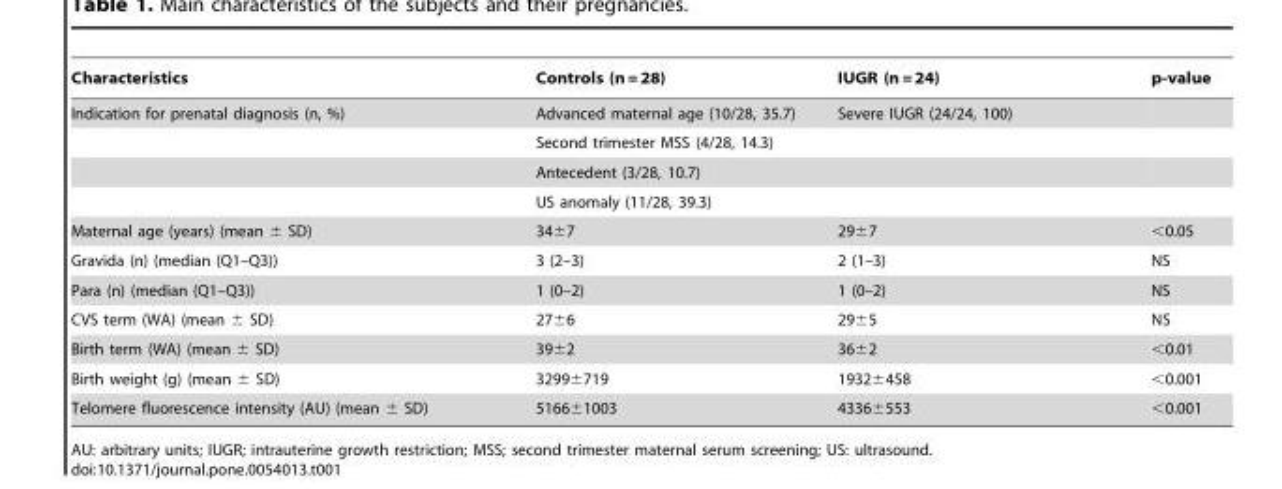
<table><thead><tr><td>Characteristics</td><td>Controls (n = 28)</td><td>IUGR (n = 24)</td><td>p-value</td></tr></thead><tbody><tr><td rowspan="4">Indication for prenatal diagnosis (n, %)</td><td>Advanced maternal age (10/28, 35.7)</td><td>Severe IUGR (24/24, 100)</td><td></td></tr><tr><td>Second trimester MSS (4/28, 14.3)</td><td></td><td></td></tr><tr><td>Antecedent (3/28, 10.7)</td><td></td><td></td></tr><tr><td>US anomaly (11/28, 39.3)</td><td></td><td></td></tr><tr><td>Maternal age (years) (mean ± SD)</td><td>34±7</td><td>29±7</td><td>&lt;0.05</td></tr><tr><td>Gravida (n) (median (Q1–Q3))</td><td>3 (2–3)</td><td>2 (1–3)</td><td>NS</td></tr><tr><td>Para (n) (median (Q1–Q3))</td><td>1 (0–2)</td><td>1 (0–2)</td><td>NS</td></tr><tr><td>CVS term (WA) (mean ± SD)</td><td>27±6</td><td>29±5</td><td>NS</td></tr><tr><td>Birth term (WA) (mean ± SD)</td><td>39±2</td><td>36±2</td><td>&lt;0.01</td></tr><tr><td>Birth weight (g) (mean ± SD)</td><td>3299±719</td><td>1932±458</td><td>&lt;0.001</td></tr><tr><td>Telomere fluorescence intensity (AU) (mean ± SD)</td><td>5166±1003</td><td>4336±553</td><td>&lt;0.001</td></tr></tbody></table>